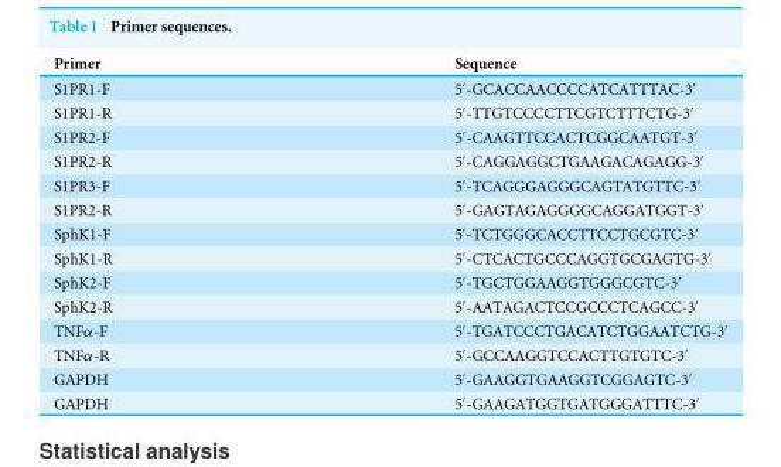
<table><thead><tr><td>Primer</td><td>Sequence</td></tr></thead><tbody><tr><td>S1PR1-F</td><td>5′-GCACCAACCCCATCATTTAC-3′</td></tr><tr><td>S1PR1-R</td><td>5′-TTGTCCCCTTCGTCTTTCTG-3′</td></tr><tr><td>S1PR2-F</td><td>5′-CAAGTTCCACTCGGCAATGT-3′</td></tr><tr><td>S1PR2-R</td><td>5′-CAGGAGGCTGAAGACAGAGG-3′</td></tr><tr><td>S1PR3-F</td><td>5′-TCAGGGAGGGCAGTATGTTC-3′</td></tr><tr><td>S1PR2-R</td><td>5′-GAGTAGAGGGGCAGGATGGT-3′</td></tr><tr><td>SphK1-F</td><td>5′-TCTGGGCACCTTCCTGCGTC-3′</td></tr><tr><td>SphK1-R</td><td>5′-CTCACTGCCCAGGTGCGAGTG-3′</td></tr><tr><td>SphK2-F</td><td>5′-TGCTGGAAGGTGGGCGTC-3′</td></tr><tr><td>SphK2-R</td><td>5′-AATAGACTCCGCCCTCAGCC-3′</td></tr><tr><td>TNFα-F</td><td>5′-TGATCCCTGACATCTGGAATCTG-3′</td></tr><tr><td>TNFα-R</td><td>5′-GCCAAGGTCCACTTGTGTC-3′</td></tr><tr><td>GAPDH</td><td>5′-GAAGGTGAAGGTCGGAGTC-3′</td></tr><tr><td>GAPDH</td><td>5′-GAAGATGGTGATGGGATTTC-3′</td></tr></tbody></table>